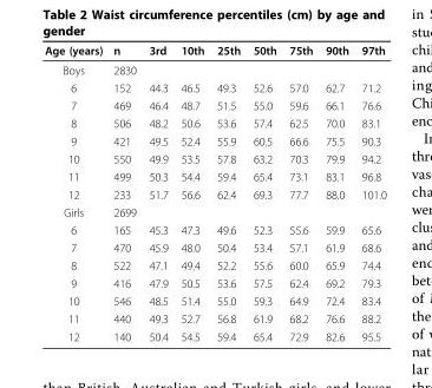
<table><thead><tr><td>Age (years)</td><td>n</td><td>3rd</td><td>10th</td><td>25th</td><td>50<sup>th</sup></td><td>75th</td><td>90th</td><td>97th</td></tr></thead><tbody><tr><td>Boys</td><td>2830</td><td></td><td></td><td></td><td></td><td></td><td></td><td></td></tr><tr><td>6</td><td>152</td><td>44.3</td><td>46.5</td><td>49.3</td><td>52.6</td><td>57.0</td><td>62.7</td><td>71.2</td></tr><tr><td>7</td><td>469</td><td>46.4</td><td>48.7</td><td>51.5</td><td>55.0</td><td>59.6</td><td>66.1</td><td>76.6</td></tr><tr><td>8</td><td>506</td><td>48.2</td><td>50.6</td><td>53.6</td><td>57.4</td><td>62.5</td><td>70.0</td><td>83.1</td></tr><tr><td>9</td><td>421</td><td>49.5</td><td>52.4</td><td>55.9</td><td>60.5</td><td>66.6</td><td>75.5</td><td>90.3</td></tr><tr><td>10</td><td>550</td><td>49.9</td><td>53.5</td><td>57.8</td><td>63.2</td><td>70.3</td><td>79.9</td><td>94.2</td></tr><tr><td>11</td><td>499</td><td>50.3</td><td>54.4</td><td>59.4</td><td>65.4</td><td>73.1</td><td>83.1</td><td>96.8</td></tr><tr><td>12</td><td>233</td><td>51.7</td><td>56.6</td><td>62.4</td><td>69.3</td><td>77.7</td><td>88.0</td><td>101.0</td></tr><tr><td>Girls</td><td>2699</td><td></td><td></td><td></td><td></td><td></td><td></td><td></td></tr><tr><td>6</td><td>165</td><td>45.3</td><td>47.3</td><td>49.6</td><td>52.3</td><td>55.6</td><td>59.9</td><td>65.6</td></tr><tr><td>7</td><td>470</td><td>45.9</td><td>48.0</td><td>50.4</td><td>53.4</td><td>57.1</td><td>61.9</td><td>68.6</td></tr><tr><td>8</td><td>522</td><td>47.1</td><td>49.4</td><td>52.2</td><td>55.6</td><td>60.0</td><td>65.9</td><td>74.4</td></tr><tr><td>9</td><td>416</td><td>47.9</td><td>50.5</td><td>53.6</td><td>57.5</td><td>62.4</td><td>69.2</td><td>79.3</td></tr><tr><td>10</td><td>546</td><td>48.5</td><td>51.4</td><td>55.0</td><td>59.3</td><td>64.9</td><td>72.4</td><td>83.4</td></tr><tr><td>11</td><td>440</td><td>49.3</td><td>52.7</td><td>56.8</td><td>61.9</td><td>68.2</td><td>76.6</td><td>88.2</td></tr><tr><td>12</td><td>140</td><td>50.4</td><td>54.5</td><td>59.4</td><td>65.4</td><td>72.9</td><td>82.6</td><td>95.5</td></tr></tbody></table>